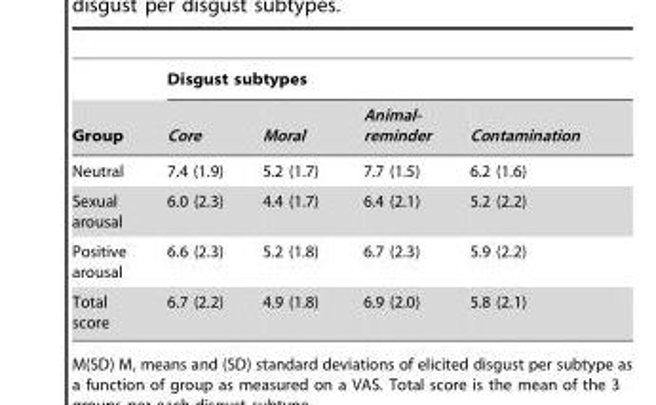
<table><thead><tr><td rowspan="2">Group</td><td colspan="4">Disgust subtypes</td></tr><tr><td>Core</td><td>Moral</td><td>Animal- reminder</td><td>Contamination</td></tr></thead><tbody><tr><td>Neutral</td><td>7.4 (1.9)</td><td>5.2 (1.7)</td><td>7.7 (1.5)</td><td>6.2 (1.6)</td></tr><tr><td>Sexual arousal</td><td>6.0 (2.3)</td><td>4.4 (1.7)</td><td>6.4 (2.1)</td><td>5.2 (2.2)</td></tr><tr><td>Positive arousal</td><td>6.6 (2.3)</td><td>5.2 (1.8)</td><td>6.7 (2.3)</td><td>5.9 (2.2)</td></tr><tr><td>Total score</td><td>6.7 (2.2)</td><td>4.9 (1.8)</td><td>6.9 (2.0)</td><td>5.8 (2.1)</td></tr></tbody></table>